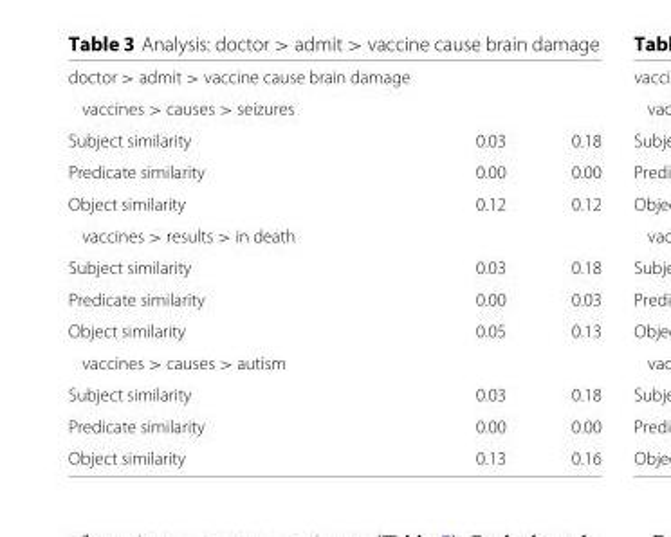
<table><tbody><tr><td colspan="3">doctor &gt; admit &gt; vaccine cause brain damage</td></tr><tr><td colspan="3">vaccines &gt; causes &gt; seizures</td></tr><tr><td>Subject similarity</td><td>0.03</td><td>0.18</td></tr><tr><td>Predicate similarity</td><td>0.00</td><td>0.00</td></tr><tr><td>Object similarity</td><td>0.12</td><td>0.12</td></tr><tr><td colspan="3">vaccines &gt; results &gt; in death</td></tr><tr><td>Subject similarity</td><td>0.03</td><td>0.18</td></tr><tr><td>Predicate similarity</td><td>0.00</td><td>0.03</td></tr><tr><td>Object similarity</td><td>0.05</td><td>0.13</td></tr><tr><td colspan="3">vaccines &gt; causes &gt; autism</td></tr><tr><td>Subject similarity</td><td>0.03</td><td>0.18</td></tr><tr><td>Predicate similarity</td><td>0.00</td><td>0.00</td></tr><tr><td>Object similarity</td><td>0.13</td><td>0.16</td></tr></tbody></table>